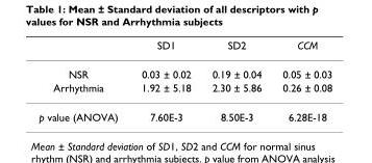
<table><thead><tr><td></td><td>SD1</td><td>SD2</td><td>CCM</td></tr></thead><tbody><tr><td>NSR</td><td>0.03 ± 0.02</td><td>0.19 ± 0.04</td><td>0.05 ± 0.03</td></tr><tr><td>Arrhythmia</td><td>1.92 ± 5.18</td><td>2.30 ± 5.86</td><td>0.26 ± 0.08</td></tr><tr><td>p value (ANOVA)</td><td>7.60E-3</td><td>8.50E-3</td><td>6.28E-18</td></tr></tbody></table>